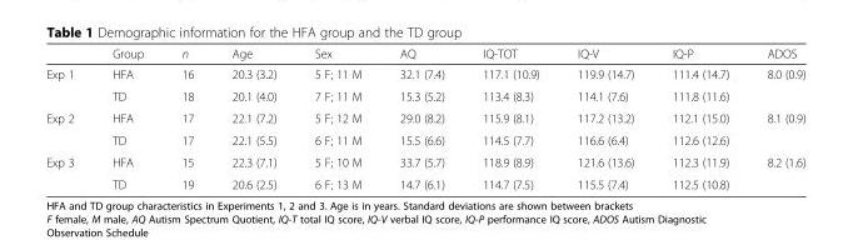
<table><thead><tr><td></td><td>Group</td><td>n</td><td>Age</td><td>Sex</td><td>AQ</td><td>IQ-TOT</td><td>IQ-V</td><td>IQ-P</td><td>ADOS</td></tr></thead><tbody><tr><td rowspan="2">Exp 1</td><td>HFA</td><td>16</td><td>20.3 (3.2)</td><td>5 F; 11 M</td><td>32.1 (7.4)</td><td>117.1 (10.9)</td><td>119.9 (14.7)</td><td>111.4 (14.7)</td><td>8.0 (0.9)</td></tr><tr><td>TD</td><td>18</td><td>20.1 (4.0)</td><td>7 F; 11 M</td><td>15.3 (5.2)</td><td>113.4 (8.3)</td><td>114.1 (7.6)</td><td>111.8 (11.6)</td><td></td></tr><tr><td rowspan="2">Exp 2</td><td>HFA</td><td>17</td><td>22.1 (7.2)</td><td>5 F; 12 M</td><td>29.0 (8.2)</td><td>115.9 (8.1)</td><td>117.2 (13.2)</td><td>112.1 (15.0)</td><td>8.1 (0.9)</td></tr><tr><td>TD</td><td>17</td><td>22.1 (5.5)</td><td>6 F; 11 M</td><td>15.5 (6.6)</td><td>114.5 (7.7)</td><td>116.6 (6.4)</td><td>112.6 (12.6)</td><td></td></tr><tr><td rowspan="2">Exp 3</td><td>HFA</td><td>15</td><td>22.3 (7.1)</td><td>5 F; 10 M</td><td>33.7 (5.7)</td><td>118.9 (8.9)</td><td>121.6 (13.6)</td><td>112.3 (11.9)</td><td>8.2 (1.6)</td></tr><tr><td>TD</td><td>19</td><td>20.6 (2.5)</td><td>6 F; 13 M</td><td>14.7 (6.1)</td><td>114.7 (7.5)</td><td>115.5 (7.4)</td><td>112.5 (10.8)</td><td></td></tr></tbody></table>